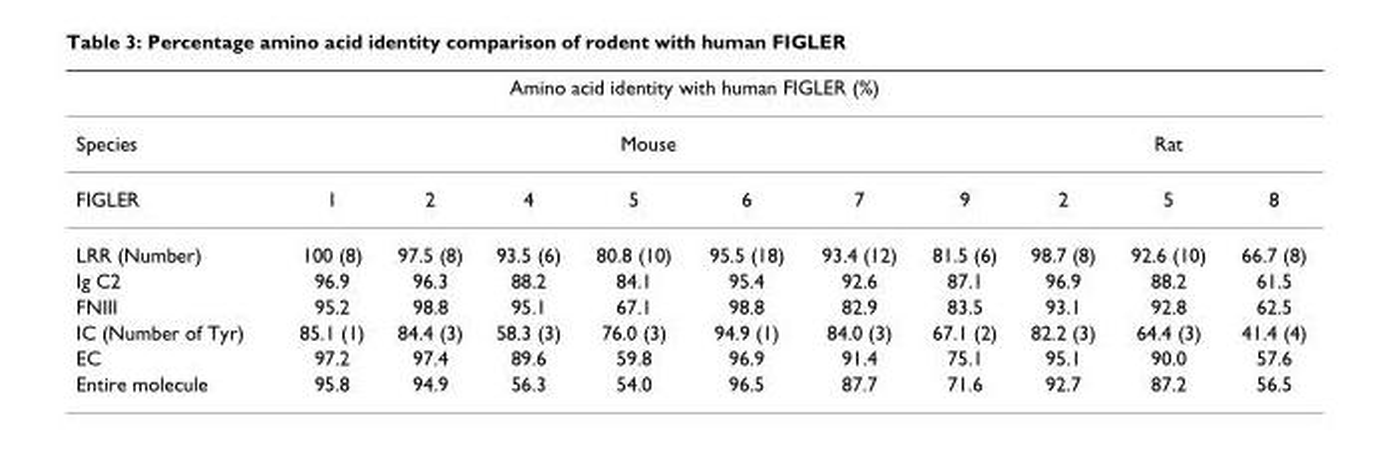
<table><thead><tr><td colspan="11">Amino acid identity with human FIGLER (%)</td></tr><tr><td rowspan="2">Species FIGLER</td><td colspan="7">Mouse</td><td colspan="3">Rat</td></tr><tr><td>1</td><td>2</td><td>4</td><td>5</td><td>6</td><td>7</td><td>9</td><td>2</td><td>5</td><td>8</td></tr></thead><tbody><tr><td>LRR (Number)</td><td>100 (8)</td><td>97.5 (8)</td><td>93.5 (6)</td><td>80.8 (10)</td><td>95.5 (18)</td><td>93.4 (12)</td><td>81.5 (6)</td><td>98.7 (8)</td><td>92.6 (10)</td><td>66.7 (8)</td></tr><tr><td>Ig C2</td><td>96.9</td><td>96.3</td><td>88.2</td><td>84.1</td><td>95.4</td><td>92.6</td><td>87.1</td><td>96.9</td><td>88.2</td><td>61.5</td></tr><tr><td>FNIII</td><td>95.2</td><td>98.8</td><td>95.1</td><td>67.1</td><td>98.8</td><td>82.9</td><td>83.5</td><td>93.1</td><td>92.8</td><td>62.5</td></tr><tr><td>IC (Number of Tyr)</td><td>85.1 (1)</td><td>84.4 (3)</td><td>58.3 (3)</td><td>76.0 (3)</td><td>94.9 (1)</td><td>84.0 (3)</td><td>67.1 (2)</td><td>82.2 (3)</td><td>64.4 (3)</td><td>41.4 (4)</td></tr><tr><td>EC</td><td>97.2</td><td>97.4</td><td>89.6</td><td>59.8</td><td>96.9</td><td>91.4</td><td>75.1</td><td>95.1</td><td>90.0</td><td>57.6</td></tr><tr><td>Entire molecule</td><td>95.8</td><td>94.9</td><td>56.3</td><td>54.0</td><td>96.5</td><td>87.7</td><td>71.6</td><td>92.7</td><td>87.2</td><td>56.5</td></tr></tbody></table>